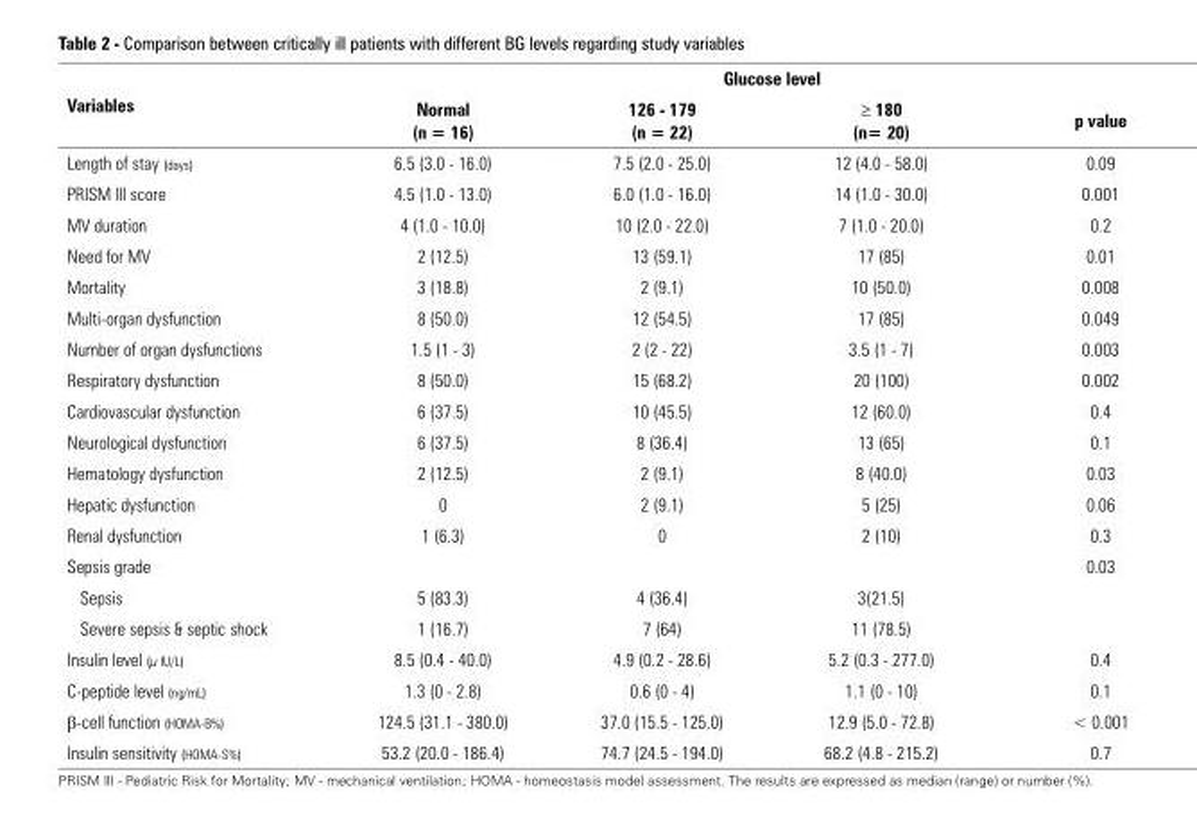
<table><thead><tr><td rowspan="2">Variables</td><td colspan="4">Glucose level</td></tr><tr><td>Normal (n = 16)</td><td>126 - 179 (n = 22)</td><td>≥ 180 (n= 20)</td><td>p value</td></tr></thead><tbody><tr><td>Length of stay (days)</td><td>6.5 (3.0 - 16.0)</td><td>7.5 (2.0 - 25.0)</td><td>12 (4.0 - 58.0)</td><td>0.09</td></tr><tr><td>PRISM III score</td><td>4.5 (1.0 - 13.0)</td><td>6.0 (1.0 - 16.0)</td><td>14 (1.0 - 30.0)</td><td>0.001</td></tr><tr><td>MV duration</td><td>4 (1.0 - 10.0)</td><td>10 (2.0 - 22.0)</td><td>7 (1.0 - 20.0)</td><td>0.2</td></tr><tr><td>Need for MV</td><td>2 (12.5)</td><td>13 (59.1)</td><td>17 (85)</td><td>0.01</td></tr><tr><td>Mortality</td><td>3 (18.8)</td><td>2 (9.1)</td><td>10 (50.0)</td><td>0.008</td></tr><tr><td>Multi-organ dysfunction</td><td>8 (50.0)</td><td>12 (54.5)</td><td>17 (85)</td><td>0.049</td></tr><tr><td>Number of organ dysfunctions</td><td>1.5 (1 - 3)</td><td>2 (2 - 22)</td><td>3.5 (1 - 7)</td><td>0.003</td></tr><tr><td>Respiratory dysfunction</td><td>8 (50.0)</td><td>15 (68.2)</td><td>20 (100)</td><td>0.002</td></tr><tr><td>Cardiovascular dysfunction</td><td>6 (37.5)</td><td>10 (45.5)</td><td>12 (60.0)</td><td>0.4</td></tr><tr><td>Neurological dysfunction</td><td>6 (37.5)</td><td>8 (36.4)</td><td>13 (65)</td><td>0.1</td></tr><tr><td>Hematology dysfunction</td><td>2 (12.5)</td><td>2 (9.1)</td><td>8 (40.0)</td><td>0.03</td></tr><tr><td>Hepatic dysfunction</td><td>0</td><td>2 (9.1)</td><td>5 (25)</td><td>0.06</td></tr><tr><td>Renal dysfunction</td><td>1 (6.3)</td><td>0</td><td>2 (10)</td><td>0.3</td></tr><tr><td>Sepsis grade</td><td></td><td></td><td></td><td>0.03</td></tr><tr><td>Sepsis</td><td>5 (83.3)</td><td>4 (36.4)</td><td>3(21.5)</td><td></td></tr><tr><td>Severe sepsis &amp; septic shock</td><td>1 (16.7)</td><td>7 (64)</td><td>11 (78.5)</td><td></td></tr><tr><td>Insulin level (μ IU/L)</td><td>8.5 (0.4 - 40.0)</td><td>4.9 (0.2 - 28.6)</td><td>5.2 (0.3 - 277.0)</td><td>0.4</td></tr><tr><td>C-peptide level (ng/mL)</td><td>1.3 (0 - 2.8)</td><td>0.6 (0 - 4)</td><td>1.1 (0 - 10)</td><td>0.1</td></tr><tr><td>β-cell function (HOMA-B%)</td><td>124.5 (31.1 - 380.0)</td><td>37.0 (15.5 - 125.0)</td><td>12.9 (5.0 - 72.8)</td><td>&lt; 0.001</td></tr><tr><td>Insulin sensitivity (HOMA-S%)</td><td>53.2 (20.0 - 186.4)</td><td>74.7 (24.5 - 194.0)</td><td>68.2 (4.8 - 215.2)</td><td>0.7</td></tr></tbody></table>